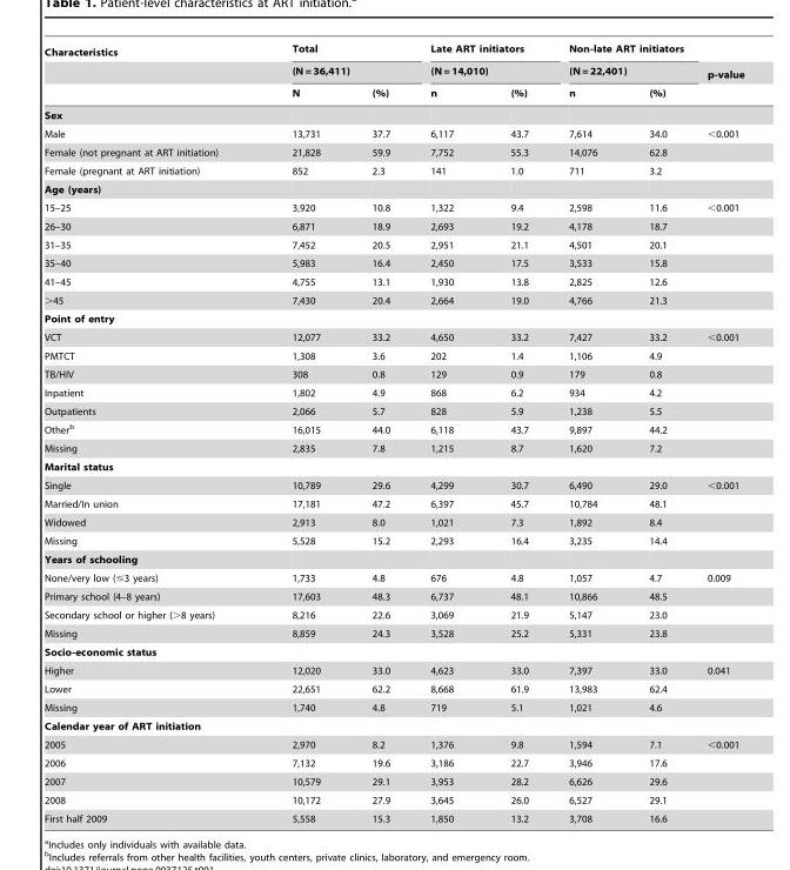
<table><thead><tr><td rowspan="3">Characteristics</td><td rowspan="2" colspan="2">Total (N = 36,411)</td><td rowspan="2" colspan="2">Late ART initiators (N = 14,010)</td><td rowspan="2" colspan="2">Non-late ART initiators (N = 22,401)</td><td rowspan="3">p-value</td></tr><tr></tr><tr><td>N</td><td>(%)</td><td>n</td><td>(%)</td><td>n</td><td>(%)</td></tr></thead><tbody><tr><td colspan="8">Sex</td></tr><tr><td>Male</td><td>13,731</td><td>37.7</td><td>6,117</td><td>43.7</td><td>7,614</td><td>34.0</td><td>&lt;0.001</td></tr><tr><td>Female (not pregnant at ART initiation)</td><td>21,828</td><td>59.9</td><td>7,752</td><td>55.3</td><td>14,076</td><td>62.8</td><td></td></tr><tr><td>Female (pregnant at ART initiation)</td><td>852</td><td>2.3</td><td>141</td><td>1.0</td><td>711</td><td>3.2</td><td></td></tr><tr><td colspan="8">Age (years)</td></tr><tr><td>15–25</td><td>3,920</td><td>10.8</td><td>1,322</td><td>9.4</td><td>2,598</td><td>11.6</td><td>&lt;0.001</td></tr><tr><td>26–30</td><td>6,871</td><td>18.9</td><td>2,693</td><td>19.2</td><td>4,178</td><td>18.7</td><td></td></tr><tr><td>31–35</td><td>7,452</td><td>20.5</td><td>2,951</td><td>21.1</td><td>4,501</td><td>20.1</td><td></td></tr><tr><td>35–40</td><td>5,983</td><td>16.4</td><td>2,450</td><td>17.5</td><td>3,533</td><td>15.8</td><td></td></tr><tr><td>41–45</td><td>4,755</td><td>13.1</td><td>1,930</td><td>13.8</td><td>2,825</td><td>12.6</td><td></td></tr><tr><td>&gt;45</td><td>7,430</td><td>20.4</td><td>2,664</td><td>19.0</td><td>4,766</td><td>21.3</td><td></td></tr><tr><td colspan="8">Point of entry</td></tr><tr><td>VCT</td><td>12,077</td><td>33.2</td><td>4,650</td><td>33.2</td><td>7,427</td><td>33.2</td><td>&lt;0.001</td></tr><tr><td>PMTCT</td><td>1,308</td><td>3.6</td><td>202</td><td>1.4</td><td>1,106</td><td>4.9</td><td></td></tr><tr><td>TB/HIV</td><td>308</td><td>0.8</td><td>129</td><td>0.9</td><td>179</td><td>0.8</td><td></td></tr><tr><td>Inpatient</td><td>1,802</td><td>4.9</td><td>868</td><td>6.2</td><td>934</td><td>4.2</td><td></td></tr><tr><td>Outpatients</td><td>2,066</td><td>5.7</td><td>828</td><td>5.9</td><td>1,238</td><td>5.5</td><td></td></tr><tr><td>Other<sup>b</sup></td><td>16,015</td><td>44.0</td><td>6,118</td><td>43.7</td><td>9,897</td><td>44.2</td><td></td></tr><tr><td>Missing</td><td>2,835</td><td>7.8</td><td>1,215</td><td>8.7</td><td>1,620</td><td>7.2</td><td></td></tr><tr><td colspan="8">Marital status</td></tr><tr><td>Single</td><td>10,789</td><td>29.6</td><td>4,299</td><td>30.7</td><td>6,490</td><td>29.0</td><td>&lt;0.001</td></tr><tr><td>Married/In union</td><td>17,181</td><td>47.2</td><td>6,397</td><td>45.7</td><td>10,784</td><td>48.1</td><td></td></tr><tr><td>Widowed</td><td>2,913</td><td>8.0</td><td>1,021</td><td>7.3</td><td>1,892</td><td>8.4</td><td></td></tr><tr><td>Missing</td><td>5,528</td><td>15.2</td><td>2,293</td><td>16.4</td><td>3,235</td><td>14.4</td><td></td></tr><tr><td colspan="8">Years of schooling</td></tr><tr><td>None/very low (≤3 years)</td><td>1,733</td><td>4.8</td><td>676</td><td>4.8</td><td>1,057</td><td>4.7</td><td>0.009</td></tr><tr><td>Primary school (4–8 years)</td><td>17,603</td><td>48.3</td><td>6,737</td><td>48.1</td><td>10,866</td><td>48.5</td><td></td></tr><tr><td>Secondary school or higher (&gt;8 years)</td><td>8,216</td><td>22.6</td><td>3,069</td><td>21.9</td><td>5,147</td><td>23.0</td><td></td></tr><tr><td>Missing</td><td>8,859</td><td>24.3</td><td>3,528</td><td>25.2</td><td>5,331</td><td>23.8</td><td></td></tr><tr><td colspan="8">Socio-economic status</td></tr><tr><td>Higher</td><td>12,020</td><td>33.0</td><td>4,623</td><td>33.0</td><td>7,397</td><td>33.0</td><td>0.041</td></tr><tr><td>Lower</td><td>22,651</td><td>62.2</td><td>8,668</td><td>61.9</td><td>13,983</td><td>62.4</td><td></td></tr><tr><td>Missing</td><td>1,740</td><td>4.8</td><td>719</td><td>5.1</td><td>1,021</td><td>4.6</td><td></td></tr><tr><td colspan="8">Calendar year of ART initiation</td></tr><tr><td>2005</td><td>2,970</td><td>8.2</td><td>1,376</td><td>9.8</td><td>1,594</td><td>7.1</td><td>&lt;0.001</td></tr><tr><td>2006</td><td>7,132</td><td>19.6</td><td>3,186</td><td>22.7</td><td>3,946</td><td>17.6</td><td></td></tr><tr><td>2007</td><td>10,579</td><td>29.1</td><td>3,953</td><td>28.2</td><td>6,626</td><td>29.6</td><td></td></tr><tr><td>2008</td><td>10,172</td><td>27.9</td><td>3,645</td><td>26.0</td><td>6,527</td><td>29.1</td><td></td></tr><tr><td>First half 2009</td><td>5,558</td><td>15.3</td><td>1,850</td><td>13.2</td><td>3,708</td><td>16.6</td><td></td></tr></tbody></table>